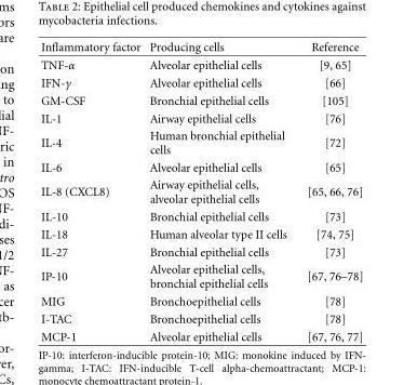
<table><thead><tr><td>Inflammatory factor</td><td>Producing cells</td><td>Reference</td></tr></thead><tbody><tr><td>TNF-α</td><td>Alveolar epithelial cells</td><td>[9, 65]</td></tr><tr><td>IFN-γ</td><td>Alveolar epithelial cells</td><td>[66]</td></tr><tr><td>GM-CSF</td><td>Bronchial epithelial cells</td><td>[105]</td></tr><tr><td>IL-1</td><td>Airway epithelial cells</td><td>[76]</td></tr><tr><td>IL-4</td><td>Human bronchial epithelial cells</td><td>[72]</td></tr><tr><td>IL-6</td><td>Alveolar epithelial cells</td><td>[65]</td></tr><tr><td>IL-8 (CXCL8)</td><td>Airway epithelial cells, alveolar epithelial cells</td><td>[65, 66, 76]</td></tr><tr><td>IL-10</td><td>Bronchial epithelial cells</td><td>[73]</td></tr><tr><td>IL-18</td><td>Human alveolar type II cells</td><td>[74, 75]</td></tr><tr><td>IL-27</td><td>Bronchial epithelial cells</td><td>[73]</td></tr><tr><td>IP-10</td><td>Alveolar epithelial cells, bronchial epithelial cells</td><td>[67, 76–78]</td></tr><tr><td>MIG</td><td>Bronchoepithelial cells</td><td>[78]</td></tr><tr><td>I-TAC</td><td>Bronchoepithelial cells</td><td>[78]</td></tr><tr><td>MCP-1</td><td>Alveolar epithelial cells</td><td>[67, 76, 77]</td></tr></tbody></table>